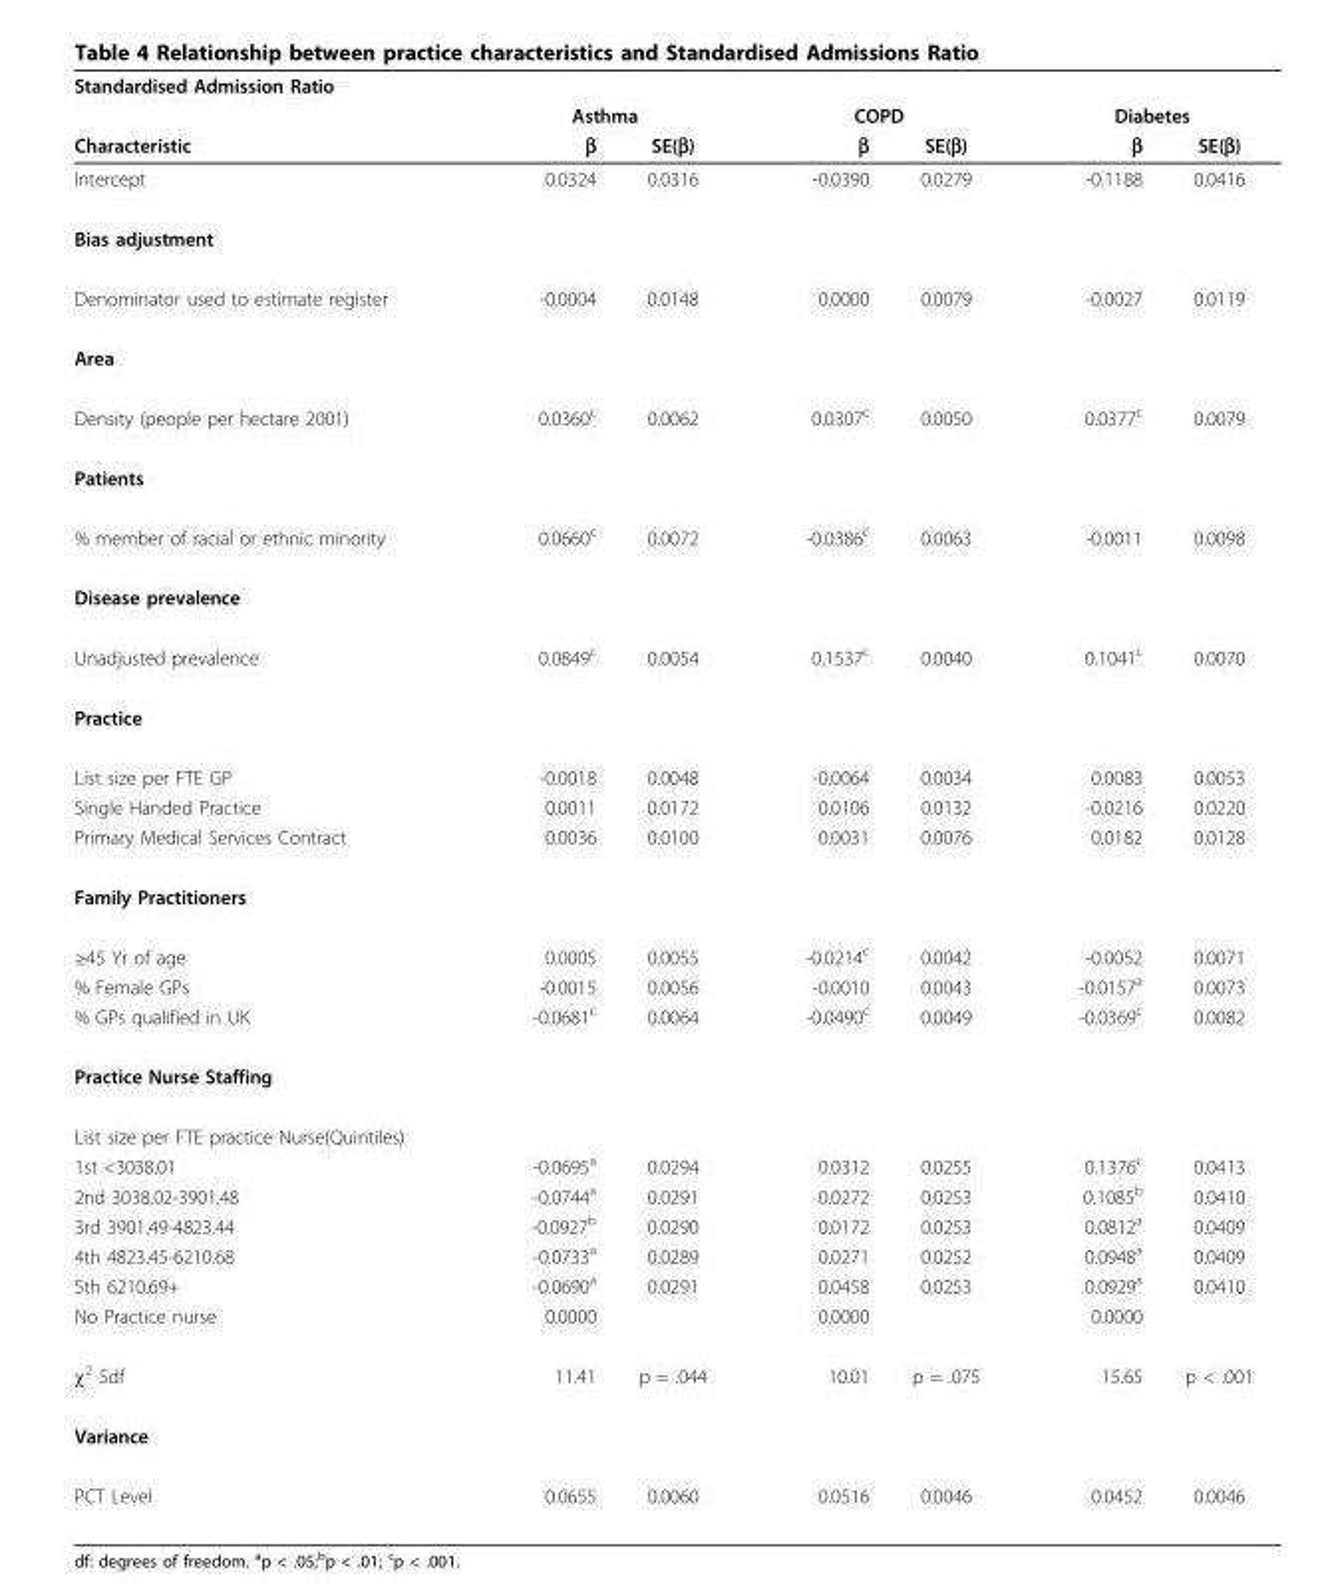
<table><thead><tr><td rowspan="3">Standardised Admission Ratio Characteristic</td><td></td><td></td><td></td><td></td><td></td><td></td></tr><tr><td colspan="2">Asthma</td><td colspan="2">COPD</td><td colspan="2">Diabetes</td></tr><tr><td>β</td><td>SE(β)</td><td>β</td><td>SE(β)</td><td>β</td><td>SE(β)</td></tr></thead><tbody><tr><td>Intercept</td><td>0.0324</td><td>0.0316</td><td>-0.0390</td><td>0.0279</td><td>-0.1188</td><td>0.0416</td></tr><tr><td colspan="7">Bias adjustment</td></tr><tr><td>Denominator used to estimate register</td><td>-0.0004</td><td>0.0148</td><td>0.0000</td><td>0.0079</td><td>-0.0027</td><td>0.0119</td></tr><tr><td colspan="7">Area</td></tr><tr><td>Density (people per hectare 2001)</td><td>0.0360<sup>c</sup></td><td>0.0062</td><td>0.0307<sup>c</sup></td><td>0.0050</td><td>0.0377<sup>c</sup></td><td>0.0079</td></tr><tr><td colspan="7">Patients</td></tr><tr><td>% member of racial or ethnic minority</td><td>0.0660<sup>c</sup></td><td>0.0072</td><td>-0.0386<sup>c</sup></td><td>0.0063</td><td>-0.0011</td><td>0.0098</td></tr><tr><td colspan="7">Disease prevalence</td></tr><tr><td>Unadjusted prevalence</td><td>0.0849<sup>c</sup></td><td>0.0054</td><td>0.1537<sup>c</sup></td><td>0.0040</td><td>0.1041<sup>c</sup></td><td>0.0070</td></tr><tr><td colspan="7">Practice</td></tr><tr><td>List size per FTE GP</td><td>-0.0018</td><td>0.0048</td><td>-0.0064</td><td>0.0034</td><td>0.0083</td><td>0.0053</td></tr><tr><td>Single Handed Practice</td><td>0.0011</td><td>0.0172</td><td>0.0106</td><td>0.0132</td><td>-0.0216</td><td>0.0220</td></tr><tr><td>Primary Medical Services Contract</td><td>0.0036</td><td>0.0100</td><td>0.0031</td><td>0.0076</td><td>0.0182</td><td>0.0128</td></tr><tr><td colspan="7">Family Practitioners</td></tr><tr><td>≥45 Yr of age</td><td>0.0005</td><td>0.0055</td><td>-0.0214<sup>c</sup></td><td>0.0042</td><td>-0.0052</td><td>0.0071</td></tr><tr><td>% Female GPs</td><td>-0.0015</td><td>0.0056</td><td>-0.0010</td><td>0.0043</td><td>-0.0157<sup>a</sup></td><td>0.0073</td></tr><tr><td>% GPs qualified in UK</td><td>-0.0681<sup>c</sup></td><td>0.0064</td><td>-0.0490<sup>c</sup></td><td>0.0049</td><td>-0.0369<sup>c</sup></td><td>0.0082</td></tr><tr><td colspan="7">Practice Nurse Staffing</td></tr><tr><td colspan="7">List size per FTE practice Nurse(Quintiles)</td></tr><tr><td>1st &lt;3038.01</td><td>-0.0695<sup>a</sup></td><td>0.0294</td><td>0.0312</td><td>0.0255</td><td>0.1376<sup>c</sup></td><td>0.0413</td></tr><tr><td>2nd 3038.02-3901.48</td><td>-0.0744<sup>a</sup></td><td>0.0291</td><td>0.0272</td><td>0.0253</td><td>0.1085<sup>b</sup></td><td>0.0410</td></tr><tr><td>3rd 3901.49-4823.44</td><td>-0.0927<sup>b</sup></td><td>0.0290</td><td>0.0172</td><td>0.0253</td><td>0.0812<sup>a</sup></td><td>0.0409</td></tr><tr><td>4th 4823.45-6210.68</td><td>-0.0733<sup>a</sup></td><td>0.0289</td><td>0.0271</td><td>0.0252</td><td>0.0948<sup>a</sup></td><td>0.0409</td></tr><tr><td>5th 6210.69+</td><td>-0.0690<sup>a</sup></td><td>0.0291</td><td>0.0458</td><td>0.0253</td><td>0.0929<sup>a</sup></td><td>0.0410</td></tr><tr><td>No Practice nurse</td><td>0.0000</td><td></td><td>0.0000</td><td></td><td>0.0000</td><td></td></tr><tr><td>χ<sup>2</sup> 5df</td><td>11.41</td><td>p = .044</td><td>10.01</td><td>p = .075</td><td>15.65</td><td>p &lt; .001</td></tr><tr><td colspan="7">Variance</td></tr><tr><td>PCT Level</td><td>0.0655</td><td>0.0060</td><td>0.0516</td><td>0.0046</td><td>0.0452</td><td>0.0046</td></tr></tbody></table>